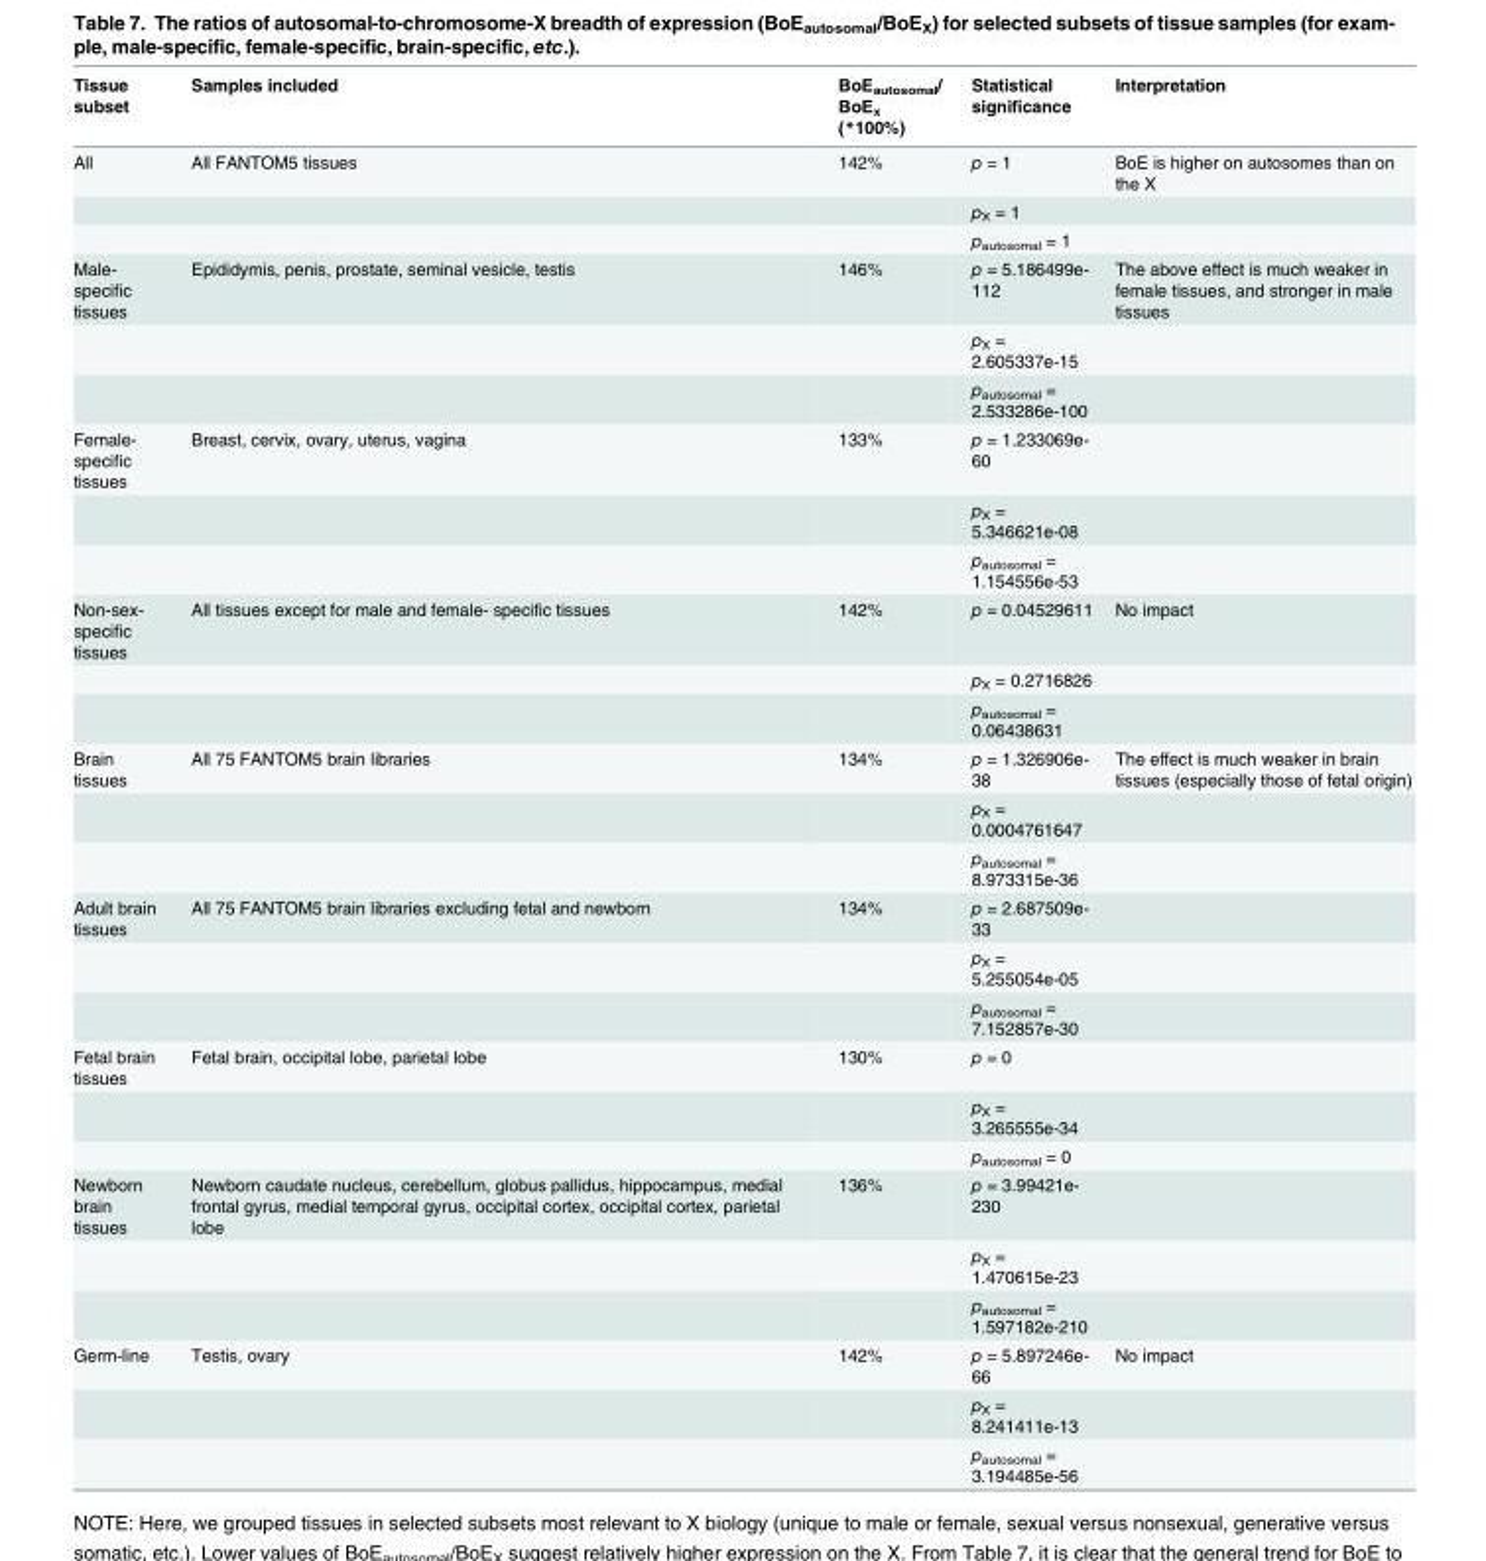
<table><thead><tr><td>Tissue subset</td><td>Samples included</td><td>BoE<sub>autosomal</sub>/ BoE<sub>x</sub> (*100%)</td><td>Statistical significance</td><td>Interpretation</td></tr></thead><tbody><tr><td rowspan="3">All</td><td>All FANTOM5 tissues</td><td>142%</td><td>p = 1</td><td>BoE is higher on autosomes than on the X</td></tr><tr><td></td><td></td><td>p<sub>X</sub> = 1</td><td></td></tr><tr><td></td><td></td><td>p<sub>autosomal</sub> = 1</td><td></td></tr><tr><td rowspan="3">Male- specific tissues</td><td>Epididymis, penis, prostate, seminal vesicle, testis</td><td>146%</td><td>p = 5.186499e- 112</td><td>The above effect is much weaker in female tissues, and stronger in male tissues</td></tr><tr><td></td><td></td><td>p<sub>X</sub> = 2.605337e-15</td><td></td></tr><tr><td></td><td></td><td>p<sub>autosomal</sub> = 2.533286e-100</td><td></td></tr><tr><td rowspan="3">Female- specific tissues</td><td>Breast, cervix, ovary, uterus, vagina</td><td>133%</td><td>p = 1.233069e- 60</td><td></td></tr><tr><td></td><td></td><td>p<sub>X</sub> = 5.346621e-08</td><td></td></tr><tr><td></td><td></td><td>p<sub>autosomal</sub> = 1.154556e-53</td><td></td></tr><tr><td rowspan="3">Non-sex- specific tissues</td><td>All tissues except for male and female- specific tissues</td><td>142%</td><td>p = 0.04529611</td><td>No impact</td></tr><tr><td></td><td></td><td>p<sub>X</sub> = 0.2716826</td><td></td></tr><tr><td></td><td></td><td>p<sub>autosomal</sub> = 0.06438631</td><td></td></tr><tr><td rowspan="3">Brain tissues</td><td>All 75 FANTOM5 brain libraries</td><td>134%</td><td>p = 1.326906e- 38</td><td>The effect is much weaker in brain tissues (especially those of fetal origin)</td></tr><tr><td></td><td></td><td>p<sub>X</sub> = 0.0004761647</td><td></td></tr><tr><td></td><td></td><td>p<sub>autosomal</sub> = 8.973315e-36</td><td></td></tr><tr><td rowspan="3">Adult brain tissues</td><td>All 75 FANTOM5 brain libraries excluding fetal and newborn</td><td>134%</td><td>p = 2.687509e- 33</td><td></td></tr><tr><td></td><td></td><td>p<sub>X</sub> = 5.255054e-05</td><td></td></tr><tr><td></td><td></td><td>p<sub>autosomal</sub> = 7.152857e-30</td><td></td></tr><tr><td rowspan="3">Fetal brain tissues</td><td>Fetal brain, occipital lobe, parietal lobe</td><td>130%</td><td>p = 0</td><td></td></tr><tr><td></td><td></td><td>p<sub>X</sub> = 3.265555e-34</td><td></td></tr><tr><td></td><td></td><td>p<sub>autosomal</sub> = 0</td><td></td></tr><tr><td rowspan="3">Newborn brain tissues</td><td>Newborn caudate nucleus, cerebellum, globus pallidus, hippocampus, medial frontal gyrus, medial temporal gyrus, occipital cortex, occipital cortex, parietal lobe</td><td>136%</td><td>p = 3.99421e- 230</td><td></td></tr><tr><td></td><td></td><td>p<sub>X</sub> = 1.470615e-23</td><td></td></tr><tr><td></td><td></td><td>p<sub>autosomal</sub> = 1.597182e-210</td><td></td></tr><tr><td rowspan="3">Germ-line</td><td>Testis, ovary</td><td>142%</td><td>p = 5.897246e- 66</td><td>No impact</td></tr><tr><td></td><td></td><td>p<sub>X</sub> = 8.241411e-13</td><td></td></tr><tr><td></td><td></td><td>p<sub>autosomal</sub> = 3.194485e-56</td><td></td></tr></tbody></table>